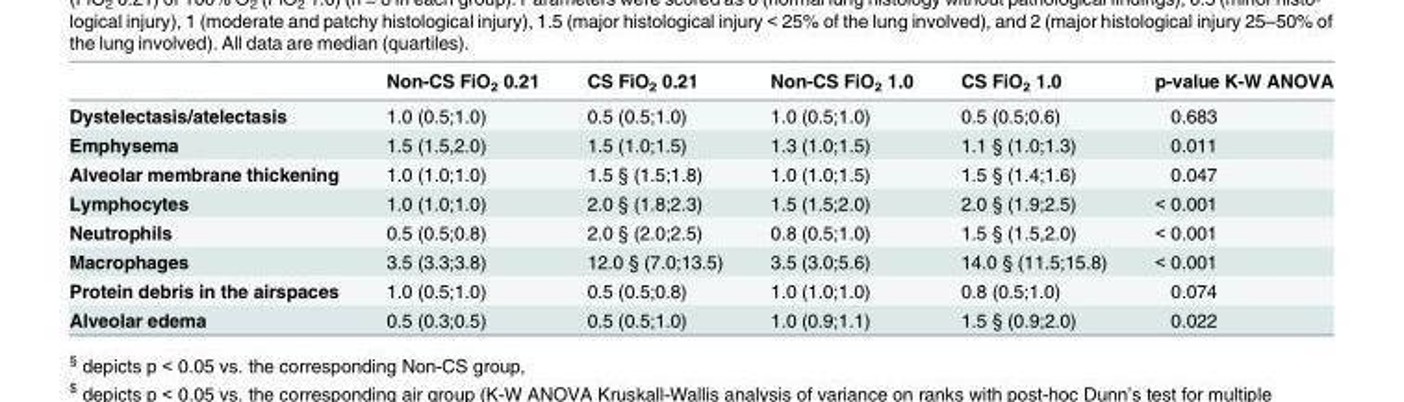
<table><thead><tr><td></td><td>Non-CS FiO<sub>2</sub> 0.21</td><td>CS FiO<sub>2</sub> 0.21</td><td>Non-CS FiO<sub>2</sub> 1.0</td><td>CS FiO<sub>2</sub> 1.0</td><td>p-value K-W ANOVA</td></tr></thead><tbody><tr><td>Dystelectasis/atelectasis</td><td>1.0 (0.5;1.0)</td><td>0.5 (0.5;1.0)</td><td>1.0 (0.5;1.0)</td><td>0.5 (0.5;0.6)</td><td>0.683</td></tr><tr><td>Emphysema</td><td>1.5 (1.5,2.0)</td><td>1.5 (1.0;1.5)</td><td>1.3 (1.0;1.5)</td><td>1.1 § (1.0;1.3)</td><td>0.011</td></tr><tr><td>Alveolar membrane thickening</td><td>1.0 (1.0;1.0)</td><td>1.5 § (1.5;1.8)</td><td>1.0 (1.0;1.5)</td><td>1.5 § (1.4;1.6)</td><td>0.047</td></tr><tr><td>Lymphocytes</td><td>1.0 (1.0;1.0)</td><td>2.0 § (1.8;2.3)</td><td>1.5 (1.5;2.0)</td><td>2.0 § (1.9;2.5)</td><td>&lt; 0.001</td></tr><tr><td>Neutrophils</td><td>0.5 (0.5;0.8)</td><td>2.0 § (2.0;2.5)</td><td>0.8 (0.5;1.0)</td><td>1.5 § (1.5,2.0)</td><td>&lt; 0.001</td></tr><tr><td>Macrophages</td><td>3.5 (3.3;3.8)</td><td>12.0 § (7.0;13.5)</td><td>3.5 (3.0;5.6)</td><td>14.0 § (11.5;15.8)</td><td>&lt; 0.001</td></tr><tr><td>Protein debris in the airspaces</td><td>1.0 (0.5;1.0)</td><td>0.5 (0.5;0.8)</td><td>1.0 (1.0;1.0)</td><td>0.8 (0.5;1.0)</td><td>0.074</td></tr><tr><td>Alveolar edema</td><td>0.5 (0.3;0.5)</td><td>0.5 (0.5;1.0)</td><td>1.0 (0.9;1.1)</td><td>1.5 § (0.9;2.0)</td><td>0.022</td></tr></tbody></table>